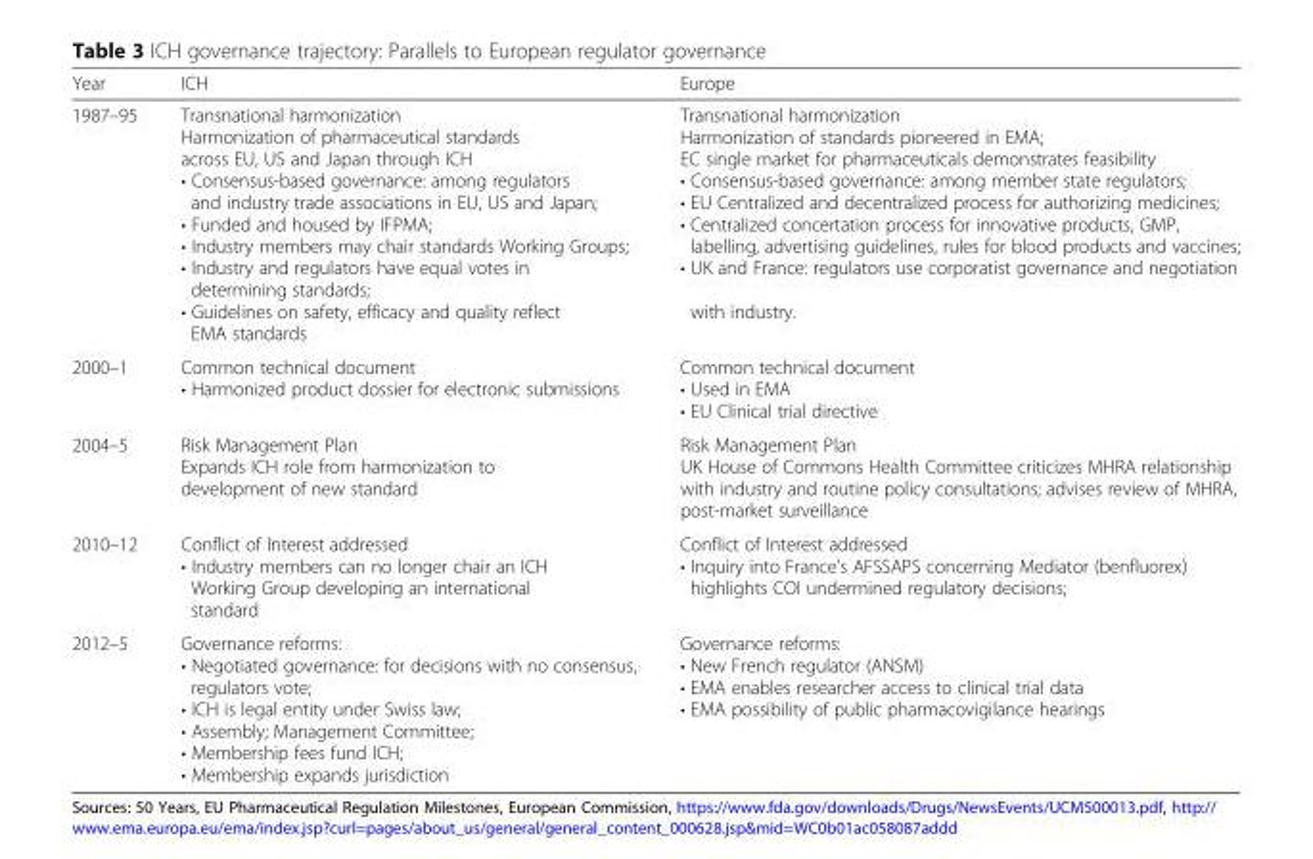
<table><thead><tr><td>Year</td><td>ICH</td><td>Europe</td></tr></thead><tbody><tr><td>1987–95</td><td>Transnational harmonization Harmonization of pharmaceutical standards across EU, US and Japan through ICH • Consensus-based governance: among regulators and industry trade associations in EU, US and Japan; • Funded and housed by IFPMA; • Industry members may chair standards Working Groups; • Industry and regulators have equal votes in determining standards; • Guidelines on safety, efficacy and quality reflect EMA standards</td><td>Transnational harmonization Harmonization of standards pioneered in EMA; EC single market for pharmaceuticals demonstrates feasibility • Consensus-based governance: among member state regulators; • EU Centralized and decentralized process for authorizing medicines; • Centralized concertation process for innovative products, GMP, labelling, advertising guidelines, rules for blood products and vaccines; • UK and France: regulators use corporatist governance and negotiation with industry.</td></tr><tr><td>2000–1</td><td>Common technical document • Harmonized product dossier for electronic submissions</td><td>Common technical document • Used in EMA • EU Clinical trial directive</td></tr><tr><td>2004–5</td><td>Risk Management Plan Expands ICH role from harmonization to development of new standard</td><td>Risk Management Plan UK House of Commons Health Committee criticizes MHRA relationship with industry and routine policy consultations; advises review of MHRA, post-market surveillance</td></tr><tr><td>2010–12</td><td>Conflict of Interest addressed • Industry members can no longer chair an ICH Working Group developing an international standard</td><td>Conflict of Interest addressed • Inquiry into France’s AFSSAPS concerning Mediator (benfluorex) highlights COI undermined regulatory decisions;</td></tr><tr><td>2012–5</td><td>Governance reforms: • Negotiated governance: for decisions with no consensus, regulators vote; • ICH is legal entity under Swiss law; • Assembly; Management Committee; • Membership fees fund ICH; • Membership expands jurisdiction</td><td>Governance reforms: • New French regulator (ANSM) • EMA enables researcher access to clinical trial data • EMA possibility of public pharmacovigilance hearings</td></tr></tbody></table>